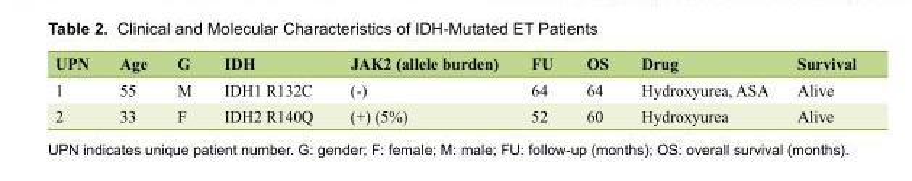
<table><thead><tr><td>UPN</td><td>Age</td><td>G</td><td>IDH</td><td>JAK2 (allele burden)</td><td>FU</td><td>OS</td><td>Drug</td><td>Survival</td></tr></thead><tbody><tr><td>1</td><td>55</td><td>M</td><td>IDH1 R132C</td><td>(-)</td><td>64</td><td>64</td><td>Hydroxyurea, ASA</td><td>Alive</td></tr><tr><td>2</td><td>33</td><td>F</td><td>IDH2 R140Q</td><td>(+) (5%)</td><td>52</td><td>60</td><td>Hydroxyurea</td><td>Alive</td></tr></tbody></table>